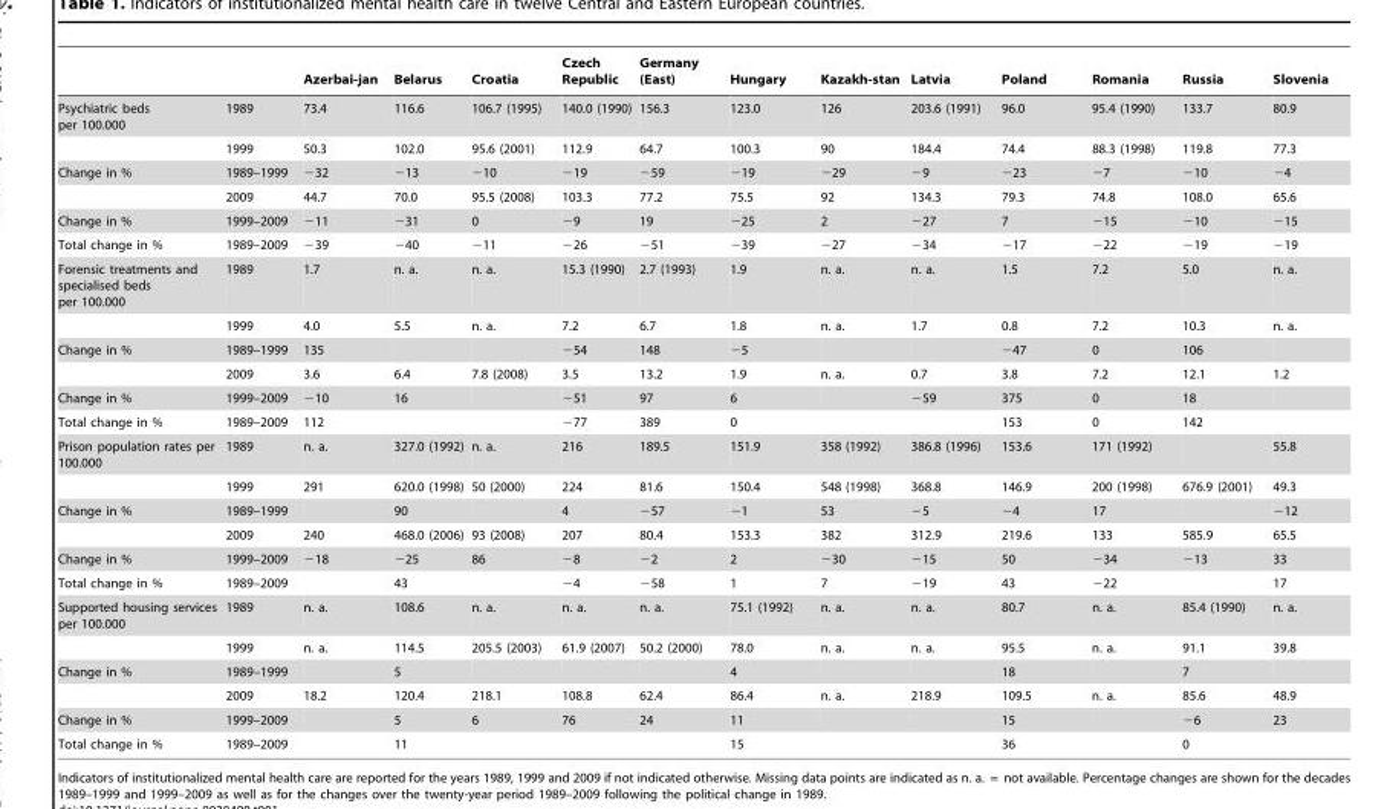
<table><thead><tr><td></td><td></td><td>Azerbai-jan</td><td>Belarus</td><td>Croatia</td><td>Czech Republic</td><td>Germany (East)</td><td>Hungary</td><td>Kazakh-stan</td><td>Latvia</td><td>Poland</td><td>Romania</td><td>Russia</td><td>Slovenia</td></tr></thead><tbody><tr><td rowspan="2">Psychiatric beds per 100.000</td><td>1989</td><td>73.4</td><td>116.6</td><td>106.7 (1995)</td><td>140.0 (1990)</td><td>156.3</td><td>123.0</td><td>126</td><td>203.6 (1991)</td><td>96.0</td><td>95.4 (1990)</td><td>133.7</td><td>80.9</td></tr><tr><td>1999</td><td>50.3</td><td>102.0</td><td>95.6 (2001)</td><td>112.9</td><td>64.7</td><td>100.3</td><td>90</td><td>184.4</td><td>74.4</td><td>88.3 (1998)</td><td>119.8</td><td>77.3</td></tr><tr><td rowspan="2">Change in %</td><td>1989–1999</td><td>−32</td><td>−13</td><td>−10</td><td>−19</td><td>−59</td><td>−19</td><td>−29</td><td>−9</td><td>−23</td><td>−7</td><td>−10</td><td>−4</td></tr><tr><td>2009</td><td>44.7</td><td>70.0</td><td>95.5 (2008)</td><td>103.3</td><td>77.2</td><td>75.5</td><td>92</td><td>134.3</td><td>79.3</td><td>74.8</td><td>108.0</td><td>65.6</td></tr><tr><td>Change in %</td><td>1999–2009</td><td>−11</td><td>−31</td><td>0</td><td>−9</td><td>19</td><td>−25</td><td>2</td><td>−27</td><td>7</td><td>−15</td><td>−10</td><td>−15</td></tr><tr><td>Total change in %</td><td>1989–2009</td><td>−39</td><td>−40</td><td>−11</td><td>−26</td><td>−51</td><td>−39</td><td>−27</td><td>−34</td><td>−17</td><td>−22</td><td>−19</td><td>−19</td></tr><tr><td rowspan="2">Forensic treatments and specialised beds per 100.000</td><td>1989</td><td>1.7</td><td>n. a.</td><td>n. a.</td><td>15.3 (1990)</td><td>2.7 (1993)</td><td>1.9</td><td>n. a.</td><td>n. a.</td><td>1.5</td><td>7.2</td><td>5.0</td><td>n. a.</td></tr><tr><td>1999</td><td>4.0</td><td>5.5</td><td>n. a.</td><td>7.2</td><td>6.7</td><td>1.8</td><td>n. a.</td><td>1.7</td><td>0.8</td><td>7.2</td><td>10.3</td><td>n. a.</td></tr><tr><td rowspan="2">Change in %</td><td>1989–1999</td><td>135</td><td></td><td></td><td>−54</td><td>148</td><td>−5</td><td></td><td></td><td>−47</td><td>0</td><td>106</td><td></td></tr><tr><td>2009</td><td>3.6</td><td>6.4</td><td>7.8 (2008)</td><td>3.5</td><td>13.2</td><td>1.9</td><td>n. a.</td><td>0.7</td><td>3.8</td><td>7.2</td><td>12.1</td><td>1.2</td></tr><tr><td>Change in %</td><td>1999–2009</td><td>−10</td><td>16</td><td></td><td>−51</td><td>97</td><td>6</td><td></td><td>−59</td><td>375</td><td>0</td><td>18</td><td></td></tr><tr><td>Total change in %</td><td>1989–2009</td><td>112</td><td></td><td></td><td>−77</td><td>389</td><td>0</td><td></td><td></td><td>153</td><td>0</td><td>142</td><td></td></tr><tr><td rowspan="2">Prison population rates per 100.000</td><td>1989</td><td>n. a.</td><td>327.0 (1992)</td><td>n. a.</td><td>216</td><td>189.5</td><td>151.9</td><td>358 (1992)</td><td>386.8 (1996)</td><td>153.6</td><td>171 (1992)</td><td></td><td>55.8</td></tr><tr><td>1999</td><td>291</td><td>620.0 (1998)</td><td>50 (2000)</td><td>224</td><td>81.6</td><td>150.4</td><td>548 (1998)</td><td>368.8</td><td>146.9</td><td>200 (1998)</td><td>676.9 (2001)</td><td>49.3</td></tr><tr><td rowspan="2">Change in %</td><td>1989–1999</td><td></td><td>90</td><td></td><td>4</td><td>−57</td><td>−1</td><td>53</td><td>−5</td><td>−4</td><td>17</td><td></td><td>−12</td></tr><tr><td>2009</td><td>240</td><td>468.0 (2006)</td><td>93 (2008)</td><td>207</td><td>80.4</td><td>153.3</td><td>382</td><td>312.9</td><td>219.6</td><td>133</td><td>585.9</td><td>65.5</td></tr><tr><td>Change in %</td><td>1999–2009</td><td>−18</td><td>−25</td><td>86</td><td>−8</td><td>−2</td><td>2</td><td>−30</td><td>−15</td><td>50</td><td>−34</td><td>−13</td><td>33</td></tr><tr><td>Total change in %</td><td>1989–2009</td><td></td><td>43</td><td></td><td>−4</td><td>−58</td><td>1</td><td>7</td><td>−19</td><td>43</td><td>−22</td><td></td><td>17</td></tr><tr><td rowspan="2">Supported housing services per 100.000</td><td>1989</td><td>n. a.</td><td>108.6</td><td>n. a.</td><td>n. a.</td><td>n. a.</td><td>75.1 (1992)</td><td>n. a.</td><td>n. a.</td><td>80.7</td><td>n. a.</td><td>85.4 (1990)</td><td>n. a.</td></tr><tr><td>1999</td><td>n. a.</td><td>114.5</td><td>205.5 (2003)</td><td>61.9 (2007)</td><td>50.2 (2000)</td><td>78.0</td><td>n. a.</td><td>n. a.</td><td>95.5</td><td>n. a.</td><td>91.1</td><td>39.8</td></tr><tr><td rowspan="2">Change in %</td><td>1989–1999</td><td></td><td>5</td><td></td><td></td><td></td><td>4</td><td></td><td></td><td>18</td><td></td><td>7</td><td></td></tr><tr><td>2009</td><td>18.2</td><td>120.4</td><td>218.1</td><td>108.8</td><td>62.4</td><td>86.4</td><td>n. a.</td><td>218.9</td><td>109.5</td><td>n. a.</td><td>85.6</td><td>48.9</td></tr><tr><td>Change in %</td><td>1999–2009</td><td></td><td>5</td><td>6</td><td>76</td><td>24</td><td>11</td><td></td><td></td><td>15</td><td></td><td>−6</td><td>23</td></tr><tr><td>Total change in %</td><td>1989–2009</td><td></td><td>11</td><td></td><td></td><td></td><td>15</td><td></td><td></td><td>36</td><td></td><td>0</td><td></td></tr></tbody></table>